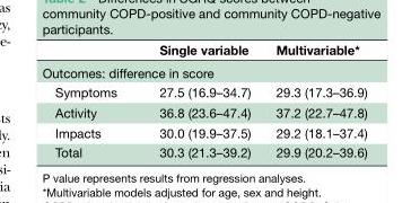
<table><thead><tr><td></td><td>Single variable</td><td>Multivariable*</td></tr></thead><tbody><tr><td colspan="3">Outcomes: difference in score</td></tr><tr><td>Symptoms</td><td>27.5 (16.9–34.7)</td><td>29.3 (17.3–36.9)</td></tr><tr><td>Activity</td><td>36.8 (23.6–47.4)</td><td>37.2 (22.7–47.8)</td></tr><tr><td>Impacts</td><td>30.0 (19.9–37.5)</td><td>29.2 (18.1–37.4)</td></tr><tr><td>Total</td><td>30.3 (21.3–39.2)</td><td>29.9 (20.2–39.6)</td></tr></tbody></table>